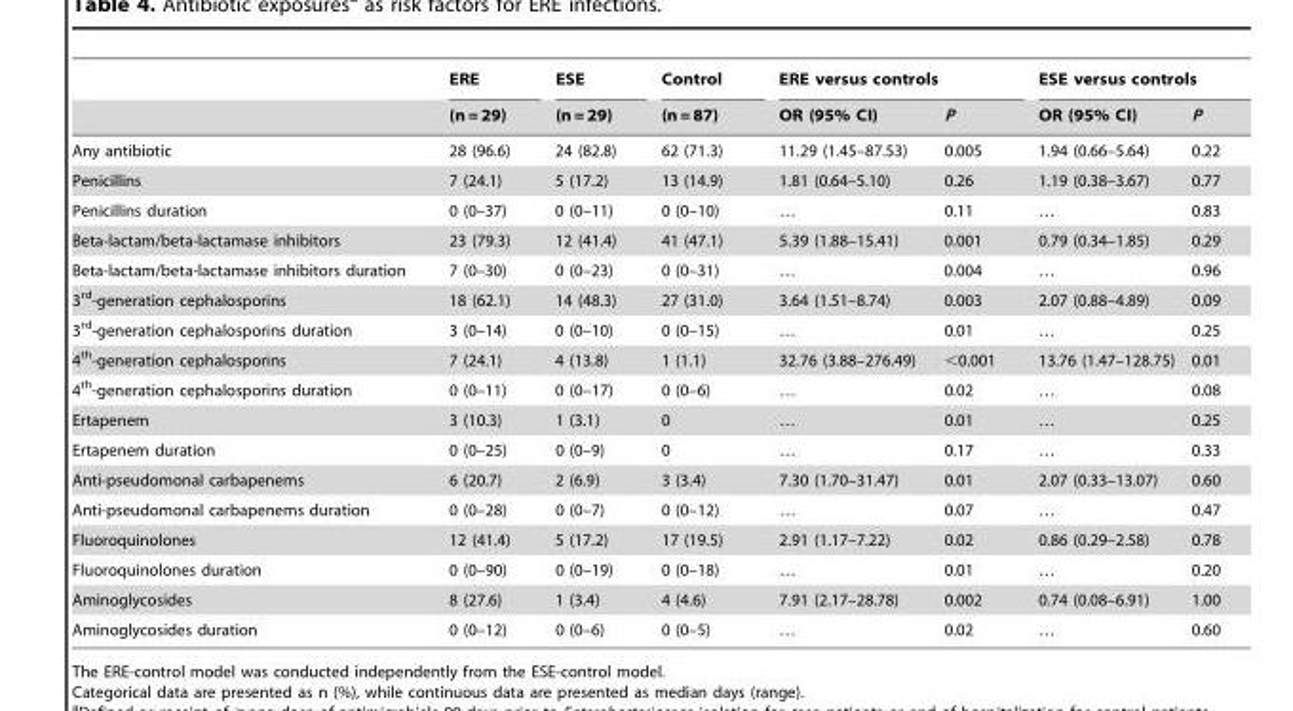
<table><thead><tr><td rowspan="2"></td><td rowspan="2">ERE (n = 29)</td><td rowspan="2">ESE (n = 29)</td><td rowspan="2">Control (n = 87)</td><td colspan="2">ERE versus controls</td><td colspan="2">ESE versus controls</td></tr><tr><td>OR (95% CI)</td><td>P</td><td>OR (95% CI)</td><td>P</td></tr></thead><tbody><tr><td>Any antibiotic</td><td>28 (96.6)</td><td>24 (82.8)</td><td>62 (71.3)</td><td>11.29 (1.45–87.53)</td><td>0.005</td><td>1.94 (0.66–5.64)</td><td>0.22</td></tr><tr><td>Penicillins</td><td>7 (24.1)</td><td>5 (17.2)</td><td>13 (14.9)</td><td>1.81 (0.64–5.10)</td><td>0.26</td><td>1.19 (0.38–3.67)</td><td>0.77</td></tr><tr><td>Penicillins duration</td><td>0 (0–37)</td><td>0 (0–11)</td><td>0 (0–10)</td><td>…</td><td>0.11</td><td>…</td><td>0.83</td></tr><tr><td>Beta-lactam/beta-lactamase inhibitors</td><td>23 (79.3)</td><td>12 (41.4)</td><td>41 (47.1)</td><td>5.39 (1.88–15.41)</td><td>0.001</td><td>0.79 (0.34–1.85)</td><td>0.29</td></tr><tr><td>Beta-lactam/beta-lactamase inhibitors duration</td><td>7 (0–30)</td><td>0 (0–23)</td><td>0 (0–31)</td><td>…</td><td>0.004</td><td>…</td><td>0.96</td></tr><tr><td>3<sup>rd</sup>-generation cephalosporins</td><td>18 (62.1)</td><td>14 (48.3)</td><td>27 (31.0)</td><td>3.64 (1.51–8.74)</td><td>0.003</td><td>2.07 (0.88–4.89)</td><td>0.09</td></tr><tr><td>3<sup>rd</sup>-generation cephalosporins duration</td><td>3 (0–14)</td><td>0 (0–10)</td><td>0 (0–15)</td><td>…</td><td>0.01</td><td>…</td><td>0.25</td></tr><tr><td>4<sup>th</sup>-generation cephalosporins</td><td>7 (24.1)</td><td>4 (13.8)</td><td>1 (1.1)</td><td>32.76 (3.88–276.49)</td><td>&lt;0.001</td><td>13.76 (1.47–128.75)</td><td>0.01</td></tr><tr><td>4<sup>th</sup>-generation cephalosporins duration</td><td>0 (0–11)</td><td>0 (0–17)</td><td>0 (0–6)</td><td>…</td><td>0.02</td><td>…</td><td>0.08</td></tr><tr><td>Ertapenem</td><td>3 (10.3)</td><td>1 (3.1)</td><td>0</td><td>…</td><td>0.01</td><td>…</td><td>0.25</td></tr><tr><td>Ertapenem duration</td><td>0 (0–25)</td><td>0 (0–9)</td><td>0</td><td>…</td><td>0.17</td><td>…</td><td>0.33</td></tr><tr><td>Anti-pseudomonal carbapenems</td><td>6 (20.7)</td><td>2 (6.9)</td><td>3 (3.4)</td><td>7.30 (1.70–31.47)</td><td>0.01</td><td>2.07 (0.33–13.07)</td><td>0.60</td></tr><tr><td>Anti-pseudomonal carbapenems duration</td><td>0 (0–28)</td><td>0 (0–7)</td><td>0 (0–12)</td><td>…</td><td>0.07</td><td>…</td><td>0.47</td></tr><tr><td>Fluoroquinolones</td><td>12 (41.4)</td><td>5 (17.2)</td><td>17 (19.5)</td><td>2.91 (1.17–7.22)</td><td>0.02</td><td>0.86 (0.29–2.58)</td><td>0.78</td></tr><tr><td>Fluoroquinolones duration</td><td>0 (0–90)</td><td>0 (0–19)</td><td>0 (0–18)</td><td>…</td><td>0.01</td><td>…</td><td>0.20</td></tr><tr><td>Aminoglycosides</td><td>8 (27.6)</td><td>1 (3.4)</td><td>4 (4.6)</td><td>7.91 (2.17–28.78)</td><td>0.002</td><td>0.74 (0.08–6.91)</td><td>1.00</td></tr><tr><td>Aminoglycosides duration</td><td>0 (0–12)</td><td>0 (0–6)</td><td>0 (0–5)</td><td>…</td><td>0.02</td><td>…</td><td>0.60</td></tr></tbody></table>